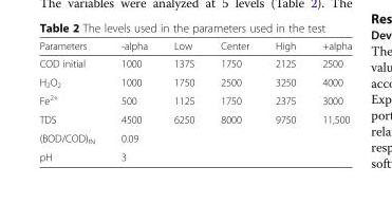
<table><thead><tr><td>Parameters</td><td>-alpha</td><td>Low</td><td>Center</td><td>High</td><td>+alpha</td></tr></thead><tbody><tr><td>COD initial</td><td>1000</td><td>1375</td><td>1750</td><td>2125</td><td>2500</td></tr><tr><td>H<sub>2</sub>O<sub>2</sub></td><td>1000</td><td>1750</td><td>2500</td><td>3250</td><td>4000</td></tr><tr><td>Fe<sup>2+</sup></td><td>500</td><td>1125</td><td>1750</td><td>2375</td><td>3000</td></tr><tr><td>TDS</td><td>4500</td><td>6250</td><td>8000</td><td>9750</td><td>11,500</td></tr><tr><td>(BOD/COD)<sub>IN</sub></td><td colspan="5">0.09</td></tr><tr><td>pH</td><td colspan="5">3</td></tr></tbody></table>